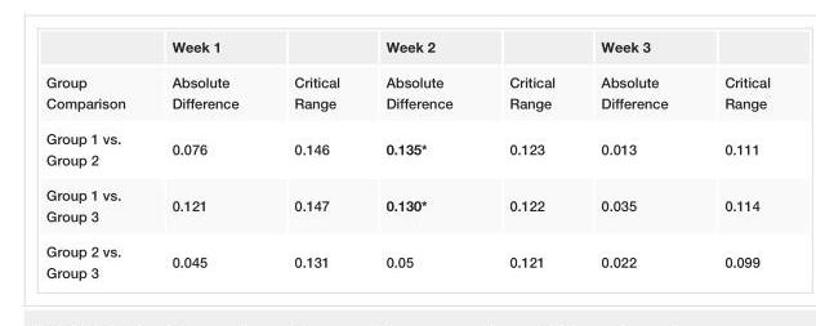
<table><thead><tr><td></td><td>Week 1</td><td></td><td>Week 2</td><td></td><td>Week 3</td><td></td></tr></thead><tbody><tr><td>Group Comparison</td><td>Absolute Difference</td><td>Critical Range</td><td>Absolute Difference</td><td>Critical Range</td><td>Absolute Difference</td><td>Critical Range</td></tr><tr><td>Group 1 vs. Group 2</td><td>0.076</td><td>0.146</td><td>0.135*</td><td>0.123</td><td>0.013</td><td>0.111</td></tr><tr><td>Group 1 vs. Group 3</td><td>0.121</td><td>0.147</td><td>0.130*</td><td>0.122</td><td>0.035</td><td>0.114</td></tr><tr><td>Group 2 vs. Group 3</td><td>0.045</td><td>0.131</td><td>0.05</td><td>0.121</td><td>0.022</td><td>0.099</td></tr></tbody></table>